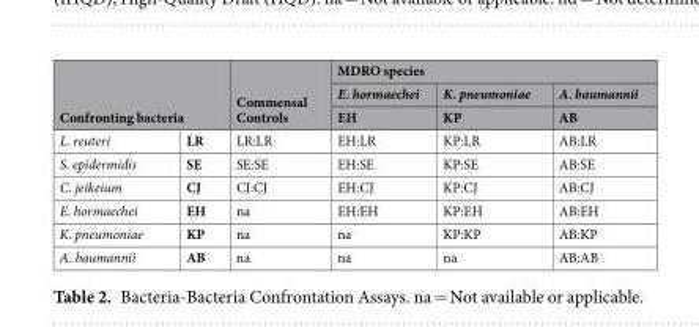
<table><thead><tr><td rowspan="3" colspan="2">Confronting bacteria</td><td rowspan="4">Commensal Controls LR:LR</td><td colspan="3">MDRO species</td></tr><tr><td rowspan="3">E. hormaechei EH EH:LR</td><td rowspan="3">K. pneumoniae KP KP:LR</td><td rowspan="3">A. baumannii AB AB:LR</td></tr><tr></tr><tr><td>L. reuteri</td><td>LR</td></tr></thead><tbody><tr><td>S. epidermidis</td><td>SE</td><td>SE:SE</td><td>EH:SE</td><td>KP:SE</td><td>AB:SE</td></tr><tr><td>C. jeikeium</td><td>CJ</td><td>CJ:CJ</td><td>EH:CJ</td><td>KP:CJ</td><td>AB:CJ</td></tr><tr><td>E. hormaechei</td><td>EH</td><td>na</td><td>EH:EH</td><td>KP:EH</td><td>AB:EH</td></tr><tr><td>K. pneumoniae</td><td>KP</td><td>na</td><td>na</td><td>KP:KP</td><td>AB:KP</td></tr><tr><td>A. baumannii</td><td>AB</td><td>na</td><td>na</td><td>na</td><td>AB:AB</td></tr></tbody></table>